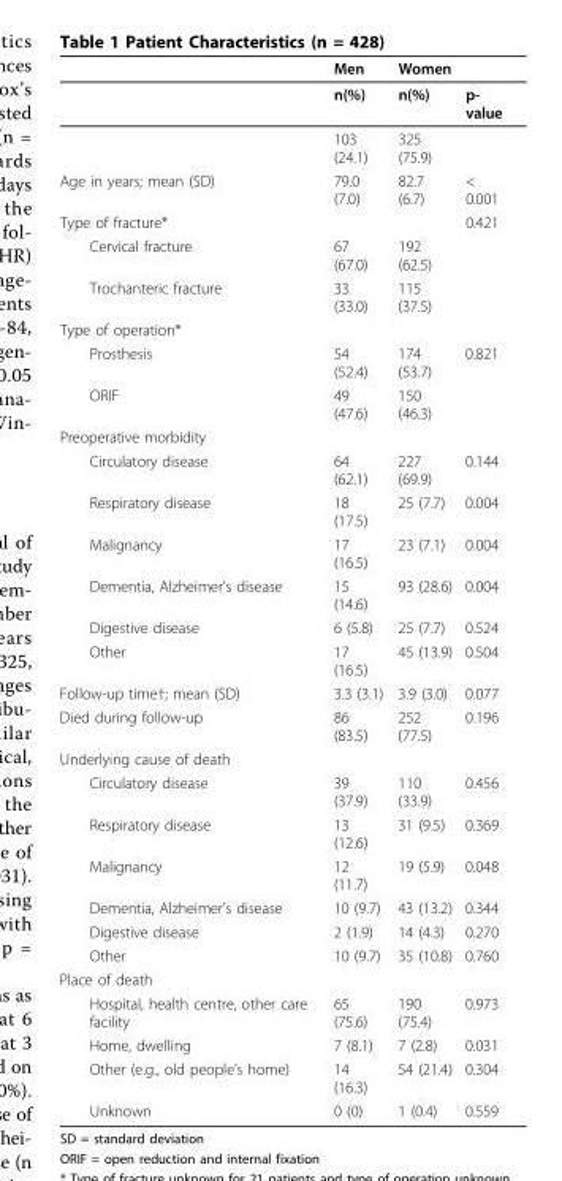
<table><thead><tr><td></td><td>Men</td><td>Women</td><td></td></tr></thead><tbody><tr><td></td><td>n(%)</td><td>n(%)</td><td>p- value</td></tr><tr><td></td><td>103 (24.1)</td><td>325 (75.9)</td><td></td></tr><tr><td>Age in years; mean (SD)</td><td>79.0 (7.0)</td><td>82.7 (6.7)</td><td>&lt; 0.001</td></tr><tr><td>Type of fracture*</td><td></td><td></td><td>0.421</td></tr><tr><td>Cervical fracture</td><td>67 (67.0)</td><td>192 (62.5)</td><td></td></tr><tr><td>Trochanteric fracture</td><td>33 (33.0)</td><td>115 (37.5)</td><td></td></tr><tr><td colspan="4">Type of operation*</td></tr><tr><td>Prosthesis</td><td>54 (52.4)</td><td>174 (53.7)</td><td>0.821</td></tr><tr><td>ORIF</td><td>49 (47.6)</td><td>150 (46.3)</td><td></td></tr><tr><td colspan="4">Preoperative morbidity</td></tr><tr><td>Circulatory disease</td><td>64 (62.1)</td><td>227 (69.9)</td><td>0.144</td></tr><tr><td>Respiratory disease</td><td>18 (17.5)</td><td>25 (7.7)</td><td>0.004</td></tr><tr><td>Malignancy</td><td>17 (16.5)</td><td>23 (7.1)</td><td>0.004</td></tr><tr><td>Dementia, Alzheimer’s disease</td><td>15 (14.6)</td><td>93 (28.6)</td><td>0.004</td></tr><tr><td>Digestive disease</td><td>6 (5.8)</td><td>25 (7.7)</td><td>0.524</td></tr><tr><td>Other</td><td>17 (16.5)</td><td>45 (13.9)</td><td>0.504</td></tr><tr><td>Follow-up time†; mean (SD)</td><td>3.3 (3.1)</td><td>3.9 (3.0)</td><td>0.077</td></tr><tr><td>Died during follow-up</td><td>86 (83.5)</td><td>252 (77.5)</td><td>0.196</td></tr><tr><td colspan="4">Underlying cause of death</td></tr><tr><td>Circulatory disease</td><td>39 (37.9)</td><td>110 (33.9)</td><td>0.456</td></tr><tr><td>Respiratory disease</td><td>13 (12.6)</td><td>31 (9.5)</td><td>0.369</td></tr><tr><td>Malignancy</td><td>12 (11.7)</td><td>19 (5.9)</td><td>0.048</td></tr><tr><td>Dementia, Alzheimer’s disease</td><td>10 (9.7)</td><td>43 (13.2)</td><td>0.344</td></tr><tr><td>Digestive disease</td><td>2 (1.9)</td><td>14 (4.3)</td><td>0.270</td></tr><tr><td>Other</td><td>10 (9.7)</td><td>35 (10.8)</td><td>0.760</td></tr><tr><td colspan="4">Place of death</td></tr><tr><td>Hospital, health centre, other care facility</td><td>65 (75.6)</td><td>190 (75.4)</td><td>0.973</td></tr><tr><td>Home, dwelling</td><td>7 (8.1)</td><td>7 (2.8)</td><td>0.031</td></tr><tr><td>Other (e.g., old people’s home)</td><td>14 (16.3)</td><td>54 (21.4)</td><td>0.304</td></tr><tr><td>Unknown</td><td>0 (0)</td><td>1 (0.4)</td><td>0.559</td></tr></tbody></table>